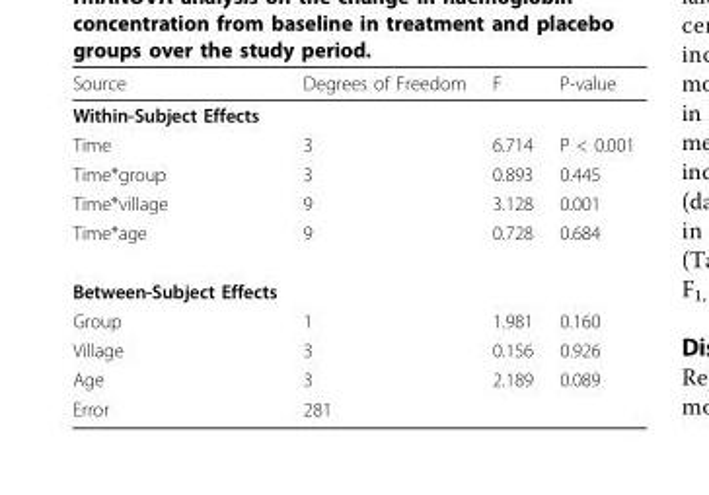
<table><thead><tr><td>Source</td><td>Degrees of Freedom</td><td>F</td><td>P-value</td></tr></thead><tbody><tr><td colspan="4">Within-Subject Effects</td></tr><tr><td>Time</td><td>3</td><td>6.714</td><td>P &lt; 0.001</td></tr><tr><td>Time*group</td><td>3</td><td>0.893</td><td>0.445</td></tr><tr><td>Time*village</td><td>9</td><td>3.128</td><td>0.001</td></tr><tr><td>Time*age</td><td>9</td><td>0.728</td><td>0.684</td></tr><tr><td colspan="4">Between-Subject Effects</td></tr><tr><td>Group</td><td>1</td><td>1.981</td><td>0.160</td></tr><tr><td>Village</td><td>3</td><td>0.156</td><td>0.926</td></tr><tr><td>Age</td><td>3</td><td>2.189</td><td>0.089</td></tr><tr><td>Error</td><td>281</td><td></td><td></td></tr></tbody></table>